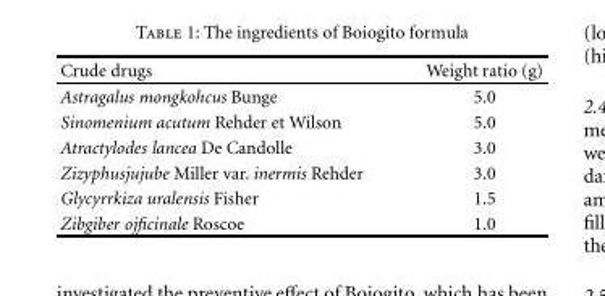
<table><thead><tr><td>Crude drugs</td><td>Weight ratio (g)</td></tr></thead><tbody><tr><td>Astragalus mongkohcus Bunge</td><td>5.0</td></tr><tr><td>Sinomenium acutum Rehder et Wilson</td><td>5.0</td></tr><tr><td>Atractylodes lancea De Candolle</td><td>3.0</td></tr><tr><td>Zizyphusjujube Miller var. inermis Rehder</td><td>3.0</td></tr><tr><td>Glycyrrkiza uralensis Fisher</td><td>1.5</td></tr><tr><td>Zibgiber ojficinale Roscoe</td><td>1.0</td></tr></tbody></table>